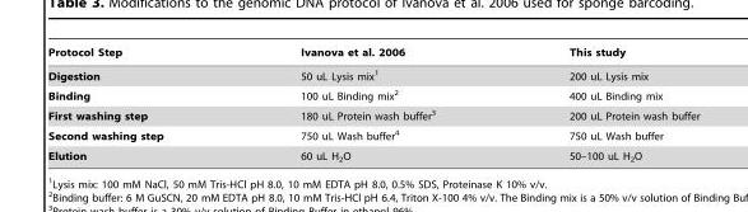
<table><thead><tr><td>Protocol Step</td><td>Ivanova et al. 2006</td><td>This study</td></tr></thead><tbody><tr><td>Digestion</td><td>50 uL Lysis mix<sup>1</sup></td><td>200 uL Lysis mix</td></tr><tr><td>Binding</td><td>100 uL Binding mix<sup>2</sup></td><td>400 uL Binding mix</td></tr><tr><td>First washing step</td><td>180 uL Protein wash buffer<sup>3</sup></td><td>200 uL Protein wash buffer</td></tr><tr><td>Second washing step</td><td>750 uL Wash buffer<sup>4</sup></td><td>750 uL Wash buffer</td></tr><tr><td>Elution</td><td>60 uL H<sub>2</sub>O</td><td>50–100 uL H<sub>2</sub>O</td></tr></tbody></table>